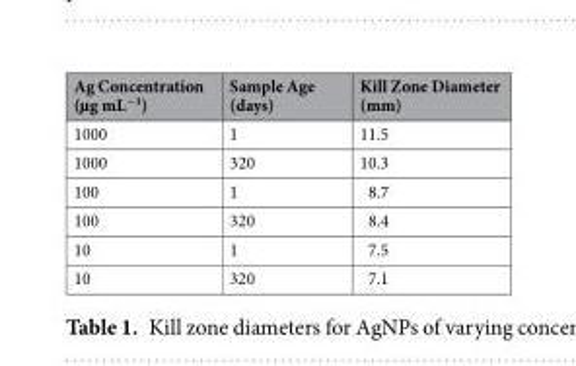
<table><thead><tr><td>Ag Concentration (µg mL<sup>−1</sup>)</td><td>Sample Age (days)</td><td>Kill Zone Diameter (mm)</td></tr></thead><tbody><tr><td>1000</td><td>1</td><td>11.5</td></tr><tr><td>1000</td><td>320</td><td>10.3</td></tr><tr><td>100</td><td>1</td><td>8.7</td></tr><tr><td>100</td><td>320</td><td>8.4</td></tr><tr><td>10</td><td>1</td><td>7.5</td></tr><tr><td>10</td><td>320</td><td>7.1</td></tr></tbody></table>